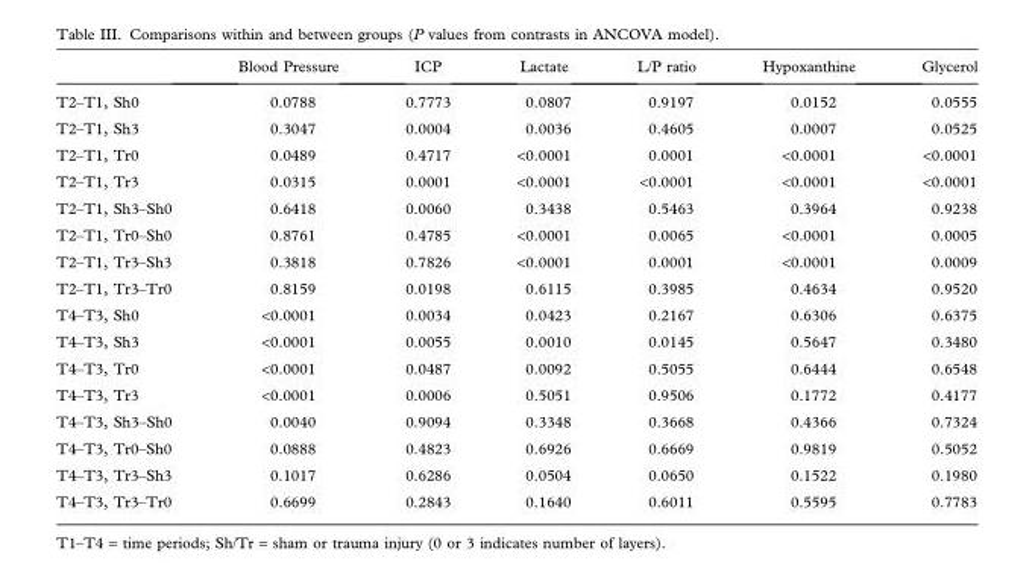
<table><thead><tr><td></td><td>Blood Pressure</td><td>ICP</td><td>Lactate</td><td>L/P ratio</td><td>Hypoxanthine</td><td>Glycerol</td></tr></thead><tbody><tr><td>T2–T1, Sh0</td><td>0.0788</td><td>0.7773</td><td>0.0807</td><td>0.9197</td><td>0.0152</td><td>0.0555</td></tr><tr><td>T2–T1, Sh3</td><td>0.3047</td><td>0.0004</td><td>0.0036</td><td>0.4605</td><td>0.0007</td><td>0.0525</td></tr><tr><td>T2–T1, Tr0</td><td>0.0489</td><td>0.4717</td><td>&lt;0.0001</td><td>0.0001</td><td>&lt;0.0001</td><td>&lt;0.0001</td></tr><tr><td>T2–T1, Tr3</td><td>0.0315</td><td>0.0001</td><td>&lt;0.0001</td><td>&lt;0.0001</td><td>&lt;0.0001</td><td>&lt;0.0001</td></tr><tr><td>T2–T1, Sh3–Sh0</td><td>0.6418</td><td>0.0060</td><td>0.3438</td><td>0.5463</td><td>0.3964</td><td>0.9238</td></tr><tr><td>T2–T1, Tr0–Sh0</td><td>0.8761</td><td>0.4785</td><td>&lt;0.0001</td><td>0.0065</td><td>&lt;0.0001</td><td>0.0005</td></tr><tr><td>T2–T1, Tr3–Sh3</td><td>0.3818</td><td>0.7826</td><td>&lt;0.0001</td><td>0.0001</td><td>&lt;0.0001</td><td>0.0009</td></tr><tr><td>T2–T1, Tr3–Tr0</td><td>0.8159</td><td>0.0198</td><td>0.6115</td><td>0.3985</td><td>0.4634</td><td>0.9520</td></tr><tr><td>T4–T3, Sh0</td><td>&lt;0.0001</td><td>0.0034</td><td>0.0423</td><td>0.2167</td><td>0.6306</td><td>0.6375</td></tr><tr><td>T4–T3, Sh3</td><td>&lt;0.0001</td><td>0.0055</td><td>0.0010</td><td>0.0145</td><td>0.5647</td><td>0.3480</td></tr><tr><td>T4–T3, Tr0</td><td>&lt;0.0001</td><td>0.0487</td><td>0.0092</td><td>0.5055</td><td>0.6444</td><td>0.6548</td></tr><tr><td>T4–T3, Tr3</td><td>&lt;0.0001</td><td>0.0006</td><td>0.5051</td><td>0.9506</td><td>0.1772</td><td>0.4177</td></tr><tr><td>T4–T3, Sh3–Sh0</td><td>0.0040</td><td>0.9094</td><td>0.3348</td><td>0.3668</td><td>0.4366</td><td>0.7324</td></tr><tr><td>T4–T3, Tr0–Sh0</td><td>0.0888</td><td>0.4823</td><td>0.6926</td><td>0.6669</td><td>0.9819</td><td>0.5052</td></tr><tr><td>T4–T3, Tr3–Sh3</td><td>0.1017</td><td>0.6286</td><td>0.0504</td><td>0.0650</td><td>0.1522</td><td>0.1980</td></tr><tr><td>T4–T3, Tr3–Tr0</td><td>0.6699</td><td>0.2843</td><td>0.1640</td><td>0.6011</td><td>0.5595</td><td>0.7783</td></tr></tbody></table>